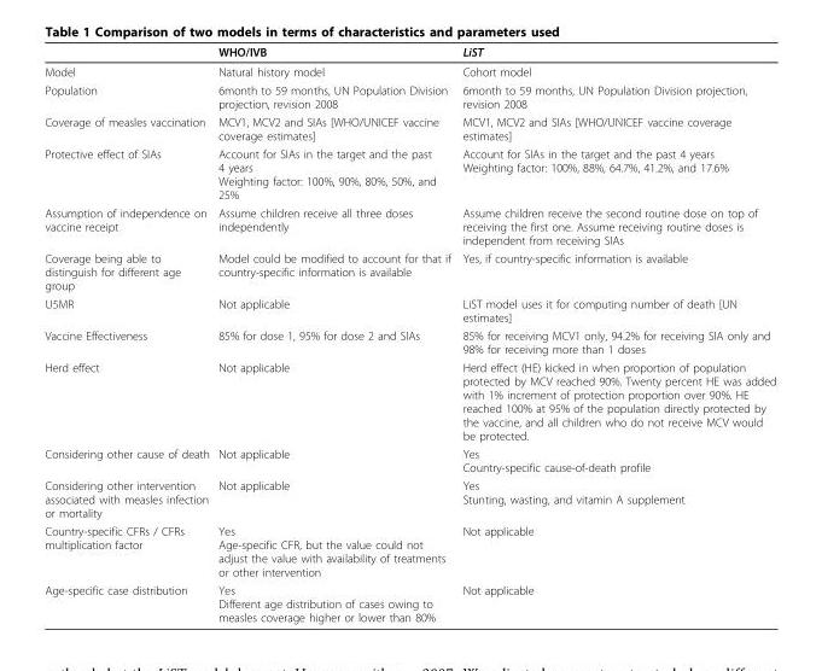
<table><thead><tr><td></td><td>WHO/IVB</td><td>LiST</td></tr></thead><tbody><tr><td>Model</td><td>Natural history model</td><td>Cohort model</td></tr><tr><td>Population</td><td>6month to 59 months, UN Population Division projection, revision 2008</td><td>6month to 59 months, UN Population Division projection, revision 2008</td></tr><tr><td>Coverage of measles vaccination</td><td>MCV1, MCV2 and SIAs [WHO/UNICEF vaccine coverage estimates]</td><td>MCV1, MCV2 and SIAs [WHO/UNICEF vaccine coverage estimates]</td></tr><tr><td>Protective effect of SIAs</td><td>Account for SIAs in the target and the past 4 years Weighting factor: 100%, 90%, 80%, 50%, and 25%</td><td>Account for SIAs in the target and the past 4 years Weighting factor: 100%, 88%, 64.7%, 41.2%, and 17.6%</td></tr><tr><td>Assumption of independence on vaccine receipt</td><td>Assume children receive all three doses independently</td><td>Assume children receive the second routine dose on top of receiving the first one. Assume receiving routine doses is independent from receiving SIAs</td></tr><tr><td>Coverage being able to distinguish for different age group</td><td>Model could be modified to account for that if country-specific information is available</td><td>Yes, if country-specific information is available</td></tr><tr><td>U5MR</td><td>Not applicable</td><td>LiST model uses it for computing number of death [UN estimates]</td></tr><tr><td>Vaccine Effectiveness</td><td>85% for dose 1, 95% for dose 2 and SIAs</td><td>85% for receiving MCV1 only, 94.2% for receiving SIA only and 98% for receiving more than 1 doses</td></tr><tr><td>Herd effect</td><td>Not applicable</td><td>Herd effect (HE) kicked in when proportion of population protected by MCV reached 90%. Twenty percent HE was added with 1% increment of protection proportion over 90%. HE reached 100% at 95% of the population directly protected by the vaccine, and all children who do not receive MCV would be protected.</td></tr><tr><td>Considering other cause of death</td><td>Not applicable</td><td>Yes Country-specific cause-of-death profile</td></tr><tr><td>Considering other intervention associated with measles infection or mortality</td><td>Not applicable</td><td>Yes Stunting, wasting, and vitamin A supplement</td></tr><tr><td>Country-specific CFRs / CFRs multiplication factor</td><td>Yes Age-specific CFR, but the value could not adjust the value with availability of treatments or other intervention</td><td>Not applicable</td></tr><tr><td>Age-specific case distribution</td><td>Yes Different age distribution of cases owing to measles coverage higher or lower than 80%</td><td>Not applicable</td></tr></tbody></table>